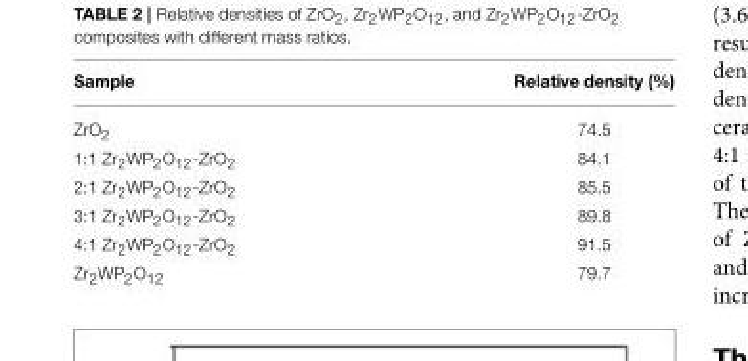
<table><thead><tr><td>Sample</td><td>Relative density (%)</td></tr></thead><tbody><tr><td>ZrO<sub>2</sub></td><td>74.5</td></tr><tr><td>1:1 Zr<sub>2</sub>WP<sub>2</sub>O<sub>12</sub>-ZrO<sub>2</sub></td><td>84.1</td></tr><tr><td>2:1 Zr<sub>2</sub>WP<sub>2</sub>O<sub>12</sub>-ZrO<sub>2</sub></td><td>85.5</td></tr><tr><td>3:1 Zr<sub>2</sub>WP<sub>2</sub>O<sub>12</sub>-ZrO<sub>2</sub></td><td>89.8</td></tr><tr><td>4:1 Zr<sub>2</sub>WP<sub>2</sub>O<sub>12</sub>-ZrO<sub>2</sub></td><td>91.5</td></tr><tr><td>Zr<sub>2</sub>WP<sub>2</sub>O<sub>12</sub></td><td>79.7</td></tr></tbody></table>